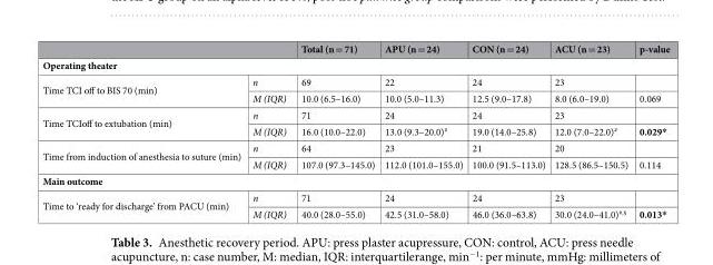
<table><thead><tr><td></td><td></td><td>Total (n = 71)</td><td>APU (n = 24)</td><td>CON (n = 24)</td><td>ACU (n = 23)</td><td>p-value</td></tr></thead><tbody><tr><td colspan="7">Operating theater</td></tr><tr><td rowspan="2">Time TCI off to BIS 70 (min)</td><td>n</td><td>69</td><td>22</td><td>24</td><td>23</td><td></td></tr><tr><td>M (IQR)</td><td>10.0 (6.5–16.0)</td><td>10.0 (5.0–11.3)</td><td>12.5 (9.0–17.8)</td><td>8.0 (6.0–19.0)</td><td>0.069</td></tr><tr><td rowspan="2">Time TCIoff to extubation (min)</td><td>n</td><td>71</td><td>24</td><td>24</td><td>23</td><td></td></tr><tr><td>M (IQR)</td><td>16.0 (10.0–22.0)</td><td>13.0 (9.3–20.0)<sup>#</sup></td><td>19.0 (14.0–25.8)</td><td>12.0 (7.0–22.0)<sup>#</sup></td><td>0.029*</td></tr><tr><td rowspan="2">Time from induction of anesthesia to suture (min)</td><td>n</td><td>64</td><td>23</td><td>21</td><td>20</td><td></td></tr><tr><td>M (IQR)</td><td>107.0 (97.3–145.0)</td><td>112.0 (101.0–155.0)</td><td>100.0 (91.5–113.0)</td><td>128.5 (86.5–150.5)</td><td>0.114</td></tr><tr><td colspan="7">Main outcome</td></tr><tr><td rowspan="2">Time to ‘ready for discharge’ from PACU (min)</td><td>n</td><td>71</td><td>24</td><td>24</td><td>23</td><td></td></tr><tr><td>M (IQR)</td><td>40.0 (28.0–55.0)</td><td>42.5 (31.0–58.0)</td><td>46.0 (36.0–63.8)</td><td>30.0 (24.0–41.0)<sup>#,§</sup></td><td>0.013*</td></tr></tbody></table>